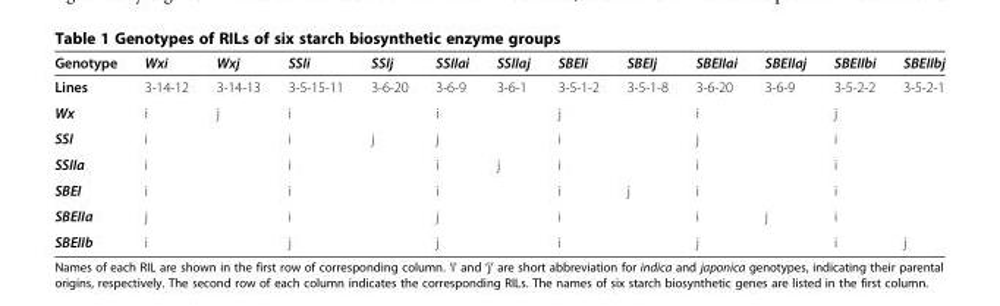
<table><thead><tr><td>Genotype</td><td>Wxi</td><td>Wxj</td><td>SSIi</td><td>SSIj</td><td>SSIIai</td><td>SSIIaj</td><td>SBEIi</td><td>SBEIj</td><td>SBEIIai</td><td>SBEIIaj</td><td>SBEIIbi</td><td>SBEIIbj</td></tr></thead><tbody><tr><td>Lines</td><td>3-14-12</td><td>3-14-13</td><td>3-5-15-11</td><td>3-6-20</td><td>3-6-9</td><td>3-6-1</td><td>3-5-1-2</td><td>3-5-1-8</td><td>3-6-20</td><td>3-6-9</td><td>3-5-2-2</td><td>3-5-2-1</td></tr><tr><td>Wx</td><td>i</td><td>j</td><td colspan="2">i</td><td colspan="2">i</td><td colspan="2">j</td><td colspan="2">i</td><td colspan="2">j</td></tr><tr><td>SSI</td><td colspan="2">i</td><td>i</td><td>j</td><td colspan="2">j</td><td colspan="2">i</td><td colspan="2">j</td><td colspan="2">i</td></tr><tr><td>SSIIa</td><td colspan="2">i</td><td colspan="2">i</td><td>i</td><td>j</td><td colspan="2">i</td><td colspan="2">i</td><td colspan="2">i</td></tr><tr><td>SBEI</td><td colspan="2">i</td><td colspan="2">i</td><td colspan="2">i</td><td>i</td><td>j</td><td colspan="2">i</td><td colspan="2">i</td></tr><tr><td>SBEIIa</td><td colspan="2">j</td><td colspan="2">i</td><td colspan="2">j</td><td colspan="2">i</td><td>i</td><td>j</td><td colspan="2">i</td></tr><tr><td>SBEIIb</td><td colspan="2">i</td><td colspan="2">j</td><td colspan="2">j</td><td colspan="2">i</td><td colspan="2">j</td><td>i</td><td>j</td></tr></tbody></table>